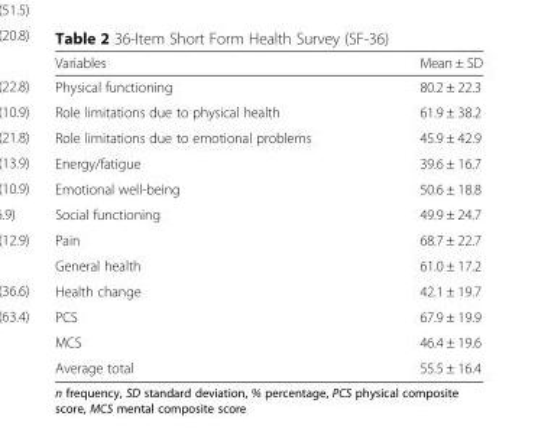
<table><thead><tr><td>Variables</td><td>Mean ± SD</td></tr></thead><tbody><tr><td>Physical functioning</td><td>80.2 ± 22.3</td></tr><tr><td>Role limitations due to physical health</td><td>61.9 ± 38.2</td></tr><tr><td>Role limitations due to emotional problems</td><td>45.9 ± 42.9</td></tr><tr><td>Energy/fatigue</td><td>39.6 ± 16.7</td></tr><tr><td>Emotional well-being</td><td>50.6 ± 18.8</td></tr><tr><td>Social functioning</td><td>49.9 ± 24.7</td></tr><tr><td>Pain</td><td>68.7 ± 22.7</td></tr><tr><td>General health</td><td>61.0 ± 17.2</td></tr><tr><td>Health change</td><td>42.1 ± 19.7</td></tr><tr><td>PCS</td><td>67.9 ± 19.9</td></tr><tr><td>MCS</td><td>46.4 ± 19.6</td></tr><tr><td>Average total</td><td>55.5 ± 16.4</td></tr></tbody></table>